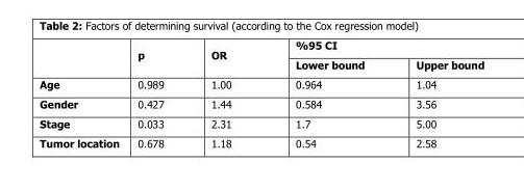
<table><thead><tr><td rowspan="2"></td><td rowspan="2">p</td><td rowspan="2">OR</td><td colspan="2">%95 CI</td></tr><tr><td>Lower bound</td><td>Upper bound</td></tr></thead><tbody><tr><td>Age</td><td>0.989</td><td>1.00</td><td>0.964</td><td>1.04</td></tr><tr><td>Gender</td><td>0.427</td><td>1.44</td><td>0.584</td><td>3.56</td></tr><tr><td>Stage</td><td>0.033</td><td>2.31</td><td>1.7</td><td>5.00</td></tr><tr><td>Tumor location</td><td>0.678</td><td>1.18</td><td>0.54</td><td>2.58</td></tr></tbody></table>